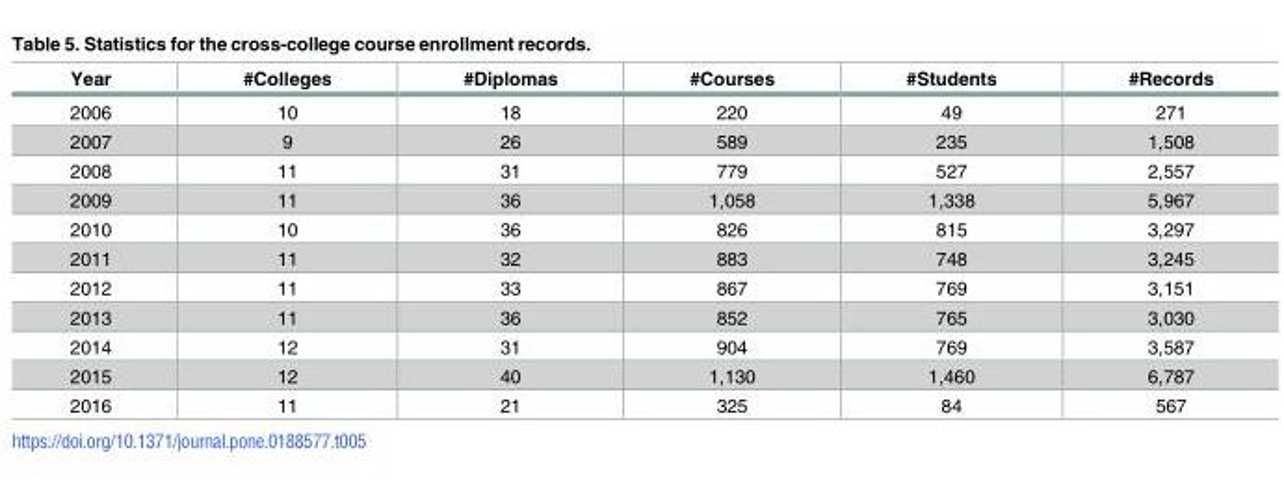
<table><thead><tr><td>Year</td><td>#Colleges</td><td>#Diplomas</td><td>#Courses</td><td>#Students</td><td>#Records</td></tr></thead><tbody><tr><td>2006</td><td>10</td><td>18</td><td>220</td><td>49</td><td>271</td></tr><tr><td>2007</td><td>9</td><td>26</td><td>589</td><td>235</td><td>1,508</td></tr><tr><td>2008</td><td>11</td><td>31</td><td>779</td><td>527</td><td>2,557</td></tr><tr><td>2009</td><td>11</td><td>36</td><td>1,058</td><td>1,338</td><td>5,967</td></tr><tr><td>2010</td><td>10</td><td>36</td><td>826</td><td>815</td><td>3,297</td></tr><tr><td>2011</td><td>11</td><td>32</td><td>883</td><td>748</td><td>3,245</td></tr><tr><td>2012</td><td>11</td><td>33</td><td>867</td><td>769</td><td>3,151</td></tr><tr><td>2013</td><td>11</td><td>36</td><td>852</td><td>765</td><td>3,030</td></tr><tr><td>2014</td><td>12</td><td>31</td><td>904</td><td>769</td><td>3,587</td></tr><tr><td>2015</td><td>12</td><td>40</td><td>1,130</td><td>1,460</td><td>6,787</td></tr><tr><td>2016</td><td>11</td><td>21</td><td>325</td><td>84</td><td>567</td></tr></tbody></table>